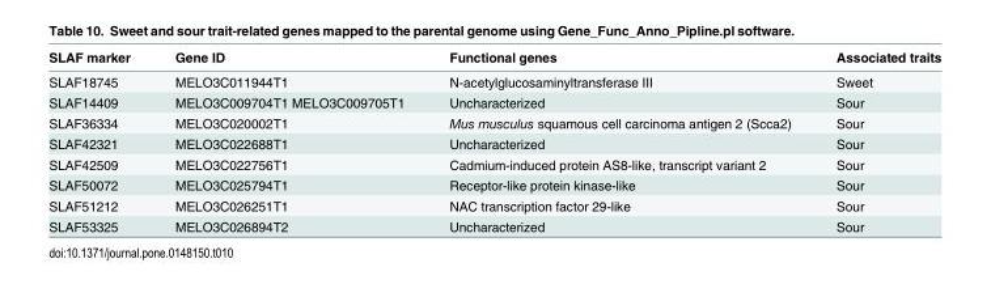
<table><thead><tr><td>SLAF marker</td><td>Gene ID</td><td>Functional genes</td><td>Associated traits</td></tr></thead><tbody><tr><td>SLAF18745</td><td>MELO3C011944T1</td><td>N-acetylglucosaminyltransferase III</td><td>Sweet</td></tr><tr><td>SLAF14409</td><td>MELO3C009704T1 MELO3C009705T1</td><td>Uncharacterized</td><td>Sour</td></tr><tr><td>SLAF36334</td><td>MELO3C020002T1</td><td>Mus musculus squamous cell carcinoma antigen 2 (Scca2)</td><td>Sour</td></tr><tr><td>SLAF42321</td><td>MELO3C022688T1</td><td>Uncharacterized</td><td>Sour</td></tr><tr><td>SLAF42509</td><td>MELO3C022756T1</td><td>Cadmium-induced protein AS8-like, transcript variant 2</td><td>Sour</td></tr><tr><td>SLAF50072</td><td>MELO3C025794T1</td><td>Receptor-like protein kinase-like</td><td>Sour</td></tr><tr><td>SLAF51212</td><td>MELO3C026251T1</td><td>NAC transcription factor 29-like</td><td>Sour</td></tr><tr><td>SLAF53325</td><td>MELO3C026894T2</td><td>Uncharacterized</td><td>Sour</td></tr></tbody></table>